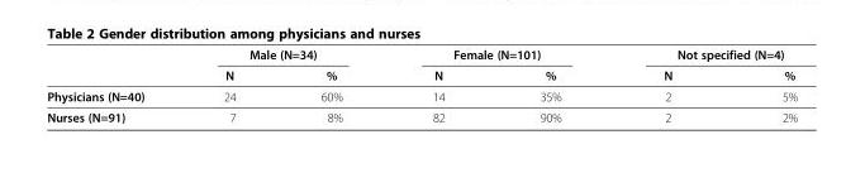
<table><thead><tr><td rowspan="2"></td><td colspan="2">Male (N=34)</td><td colspan="2">Female (N=101)</td><td colspan="2">Not specified (N=4)</td></tr><tr><td>N</td><td>%</td><td>N</td><td>%</td><td>N</td><td>%</td></tr></thead><tbody><tr><td>Physicians (N=40)</td><td>24</td><td>60%</td><td>14</td><td>35%</td><td>2</td><td>5%</td></tr><tr><td>Nurses (N=91)</td><td>7</td><td>8%</td><td>82</td><td>90%</td><td>2</td><td>2%</td></tr></tbody></table>